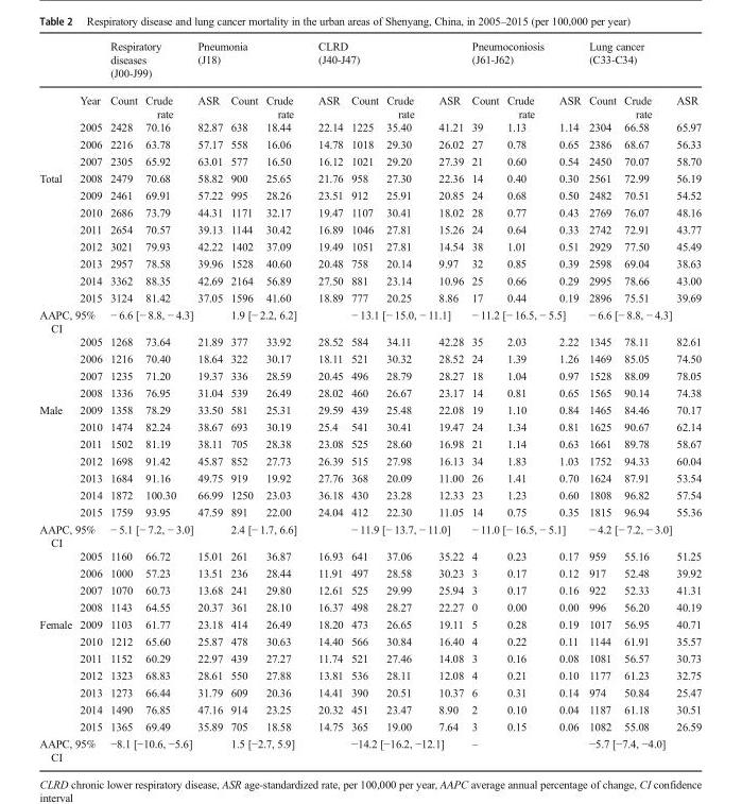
<table><thead><tr><td rowspan="2"></td><td rowspan="2">Year</td><td colspan="2">Respiratory diseases (J00-J99)</td><td colspan="3">Pneumonia (J18)</td><td colspan="4">CLRD (J40-J47)</td><td colspan="3">Pneumoconiosis (J61-J62)</td><td colspan="3">Lung cancer (C33-C34)</td></tr><tr><td>Count</td><td>Crude rate</td><td>ASR</td><td>Count</td><td>Crude rate</td><td>ASR</td><td>Count</td><td>Crude rate</td><td>ASR</td><td>Count</td><td>Crude rate</td><td>ASR</td><td>Count</td><td>Crude rate</td><td>ASR</td></tr></thead><tbody><tr><td></td><td>2005</td><td>2428</td><td>70.16</td><td>82.87</td><td>638</td><td>18.44</td><td>22.14</td><td>1225</td><td>35.40</td><td>41.21</td><td>39</td><td>1.13</td><td>1.14</td><td>2304</td><td>66.58</td><td>65.97</td></tr><tr><td></td><td>2006</td><td>2216</td><td>63.78</td><td>57.17</td><td>558</td><td>16.06</td><td>14.78</td><td>1018</td><td>29.30</td><td>26.02</td><td>27</td><td>0.78</td><td>0.65</td><td>2386</td><td>68.67</td><td>56.33</td></tr><tr><td></td><td>2007</td><td>2305</td><td>65.92</td><td>63.01</td><td>577</td><td>16.50</td><td>16.12</td><td>1021</td><td>29.20</td><td>27.39</td><td>21</td><td>0.60</td><td>0.54</td><td>2450</td><td>70.07</td><td>58.70</td></tr><tr><td rowspan="8">Total</td><td>2008</td><td>2479</td><td>70.68</td><td>58.82</td><td>900</td><td>25.65</td><td>21.76</td><td>958</td><td>27.30</td><td>22.36</td><td>14</td><td>0.40</td><td>0.30</td><td>2561</td><td>72.99</td><td>56.19</td></tr><tr><td>2009</td><td>2461</td><td>69.91</td><td>57.22</td><td>995</td><td>28.26</td><td>23.51</td><td>912</td><td>25.91</td><td>20.85</td><td>24</td><td>0.68</td><td>0.50</td><td>2482</td><td>70.51</td><td>54.52</td></tr><tr><td>2010</td><td>2686</td><td>73.79</td><td>44.31</td><td>1171</td><td>32.17</td><td>19.47</td><td>1107</td><td>30.41</td><td>18.02</td><td>28</td><td>0.77</td><td>0.43</td><td>2769</td><td>76.07</td><td>48.16</td></tr><tr><td>2011</td><td>2654</td><td>70.57</td><td>39.13</td><td>1144</td><td>30.42</td><td>16.89</td><td>1046</td><td>27.81</td><td>15.26</td><td>24</td><td>0.64</td><td>0.33</td><td>2742</td><td>72.91</td><td>43.77</td></tr><tr><td>2012</td><td>3021</td><td>79.93</td><td>42.22</td><td>1402</td><td>37.09</td><td>19.49</td><td>1051</td><td>27.81</td><td>14.54</td><td>38</td><td>1.01</td><td>0.51</td><td>2929</td><td>77.50</td><td>45.49</td></tr><tr><td>2013</td><td>2957</td><td>78.58</td><td>39.96</td><td>1528</td><td>40.60</td><td>20.48</td><td>758</td><td>20.14</td><td>9.97</td><td>32</td><td>0.85</td><td>0.39</td><td>2598</td><td>69.04</td><td>38.63</td></tr><tr><td>2014</td><td>3362</td><td>88.35</td><td>42.69</td><td>2164</td><td>56.89</td><td>27.50</td><td>881</td><td>23.14</td><td>10.96</td><td>25</td><td>0.66</td><td>0.29</td><td>2995</td><td>78.66</td><td>43.00</td></tr><tr><td>2015</td><td>3124</td><td>81.42</td><td>37.05</td><td>1596</td><td>41.60</td><td>18.89</td><td>777</td><td>20.25</td><td>8.86</td><td>17</td><td>0.44</td><td>0.19</td><td>2896</td><td>75.51</td><td>39.69</td></tr><tr><td colspan="2">AAPC, 95% CI</td><td colspan="3">− 6.6 [− 8.8, − 4.3]</td><td colspan="3">1.9 [− 2.2, 6.2]</td><td colspan="3">− 13.1 [− 15.0, − 11.1]</td><td colspan="3">− 11.2 [− 16.5, − 5.5]</td><td colspan="3">− 6.6 [− 8.8, − 4.3]</td></tr><tr><td></td><td>2005</td><td>1268</td><td>73.64</td><td>21.89</td><td>377</td><td>33.92</td><td>28.52</td><td>584</td><td>34.11</td><td>42.28</td><td>35</td><td>2.03</td><td>2.22</td><td>1345</td><td>78.11</td><td>82.61</td></tr><tr><td></td><td>2006</td><td>1216</td><td>70.40</td><td>18.64</td><td>322</td><td>30.17</td><td>18.11</td><td>521</td><td>30.32</td><td>28.52</td><td>24</td><td>1.39</td><td>1.26</td><td>1469</td><td>85.05</td><td>74.50</td></tr><tr><td></td><td>2007</td><td>1235</td><td>71.20</td><td>19.37</td><td>336</td><td>28.59</td><td>20.45</td><td>496</td><td>28.79</td><td>28.27</td><td>18</td><td>1.04</td><td>0.97</td><td>1528</td><td>88.09</td><td>78.05</td></tr><tr><td></td><td>2008</td><td>1336</td><td>76.95</td><td>31.04</td><td>539</td><td>26.49</td><td>28.02</td><td>460</td><td>26.67</td><td>23.17</td><td>14</td><td>0.81</td><td>0.65</td><td>1565</td><td>90.14</td><td>74.38</td></tr><tr><td rowspan="7">Male</td><td>2009</td><td>1358</td><td>78.29</td><td>33.50</td><td>581</td><td>25.31</td><td>29.59</td><td>439</td><td>25.48</td><td>22.08</td><td>19</td><td>1.10</td><td>0.84</td><td>1465</td><td>84.46</td><td>70.17</td></tr><tr><td>2010</td><td>1474</td><td>82.24</td><td>38.67</td><td>693</td><td>30.19</td><td>25.4</td><td>541</td><td>30.41</td><td>19.47</td><td>24</td><td>1.34</td><td>0.81</td><td>1625</td><td>90.67</td><td>62.14</td></tr><tr><td>2011</td><td>1502</td><td>81.19</td><td>38.11</td><td>705</td><td>28.38</td><td>23.08</td><td>525</td><td>28.60</td><td>16.98</td><td>21</td><td>1.14</td><td>0.63</td><td>1661</td><td>89.78</td><td>58.67</td></tr><tr><td>2012</td><td>1698</td><td>91.42</td><td>45.87</td><td>852</td><td>27.73</td><td>26.39</td><td>515</td><td>27.98</td><td>16.13</td><td>34</td><td>1.83</td><td>1.03</td><td>1752</td><td>94.33</td><td>60.04</td></tr><tr><td>2013</td><td>1684</td><td>91.16</td><td>49.75</td><td>919</td><td>19.92</td><td>27.76</td><td>368</td><td>20.09</td><td>11.00</td><td>26</td><td>1.41</td><td>0.70</td><td>1624</td><td>87.91</td><td>53.54</td></tr><tr><td>2014</td><td>1872</td><td>100.30</td><td>66.99</td><td>1250</td><td>23.03</td><td>36.18</td><td>430</td><td>23.28</td><td>12.33</td><td>23</td><td>1.23</td><td>0.60</td><td>1808</td><td>96.82</td><td>57.54</td></tr><tr><td>2015</td><td>1759</td><td>93.95</td><td>47.59</td><td>891</td><td>22.00</td><td>24.04</td><td>412</td><td>22.30</td><td>11.05</td><td>14</td><td>0.75</td><td>0.35</td><td>1815</td><td>96.94</td><td>55.36</td></tr><tr><td colspan="2">AAPC, 95% CI</td><td colspan="3">− 5.1 [− 7.2, − 3.0]</td><td colspan="3">2.4 [− 1.7, 6.6]</td><td colspan="3">− 11.9 [− 13.7, − 11.0]</td><td colspan="3">− 11.0 [− 16.5, − 5.1]</td><td colspan="3">− 4.2 [− 7.2, − 3.0]</td></tr><tr><td></td><td>2005</td><td>1160</td><td>66.72</td><td>15.01</td><td>261</td><td>36.87</td><td>16.93</td><td>641</td><td>37.06</td><td>35.22</td><td>4</td><td>0.23</td><td>0.17</td><td>959</td><td>55.16</td><td>51.25</td></tr><tr><td></td><td>2006</td><td>1000</td><td>57.23</td><td>13.51</td><td>236</td><td>28.44</td><td>11.91</td><td>497</td><td>28.58</td><td>30.23</td><td>3</td><td>0.17</td><td>0.12</td><td>917</td><td>52.48</td><td>39.92</td></tr><tr><td></td><td>2007</td><td>1070</td><td>60.73</td><td>13.68</td><td>241</td><td>29.80</td><td>12.61</td><td>525</td><td>29.99</td><td>25.94</td><td>3</td><td>0.17</td><td>0.16</td><td>922</td><td>52.33</td><td>41.31</td></tr><tr><td></td><td>2008</td><td>1143</td><td>64.55</td><td>20.37</td><td>361</td><td>28.10</td><td>16.37</td><td>498</td><td>28.27</td><td>22.27</td><td>0</td><td>0.00</td><td>0.00</td><td>996</td><td>56.20</td><td>40.19</td></tr><tr><td rowspan="7">Female</td><td>2009</td><td>1103</td><td>61.77</td><td>23.18</td><td>414</td><td>26.49</td><td>18.20</td><td>473</td><td>26.65</td><td>19.11</td><td>5</td><td>0.28</td><td>0.19</td><td>1017</td><td>56.95</td><td>40.71</td></tr><tr><td>2010</td><td>1212</td><td>65.60</td><td>25.87</td><td>478</td><td>30.63</td><td>14.40</td><td>566</td><td>30.84</td><td>16.40</td><td>4</td><td>0.22</td><td>0.11</td><td>1144</td><td>61.91</td><td>35.57</td></tr><tr><td>2011</td><td>1152</td><td>60.29</td><td>22.97</td><td>439</td><td>27.27</td><td>11.74</td><td>521</td><td>27.46</td><td>14.08</td><td>3</td><td>0.16</td><td>0.08</td><td>1081</td><td>56.57</td><td>30.73</td></tr><tr><td>2012</td><td>1323</td><td>68.83</td><td>28.61</td><td>550</td><td>27.88</td><td>13.81</td><td>536</td><td>28.11</td><td>12.08</td><td>4</td><td>0.21</td><td>0.10</td><td>1177</td><td>61.23</td><td>32.75</td></tr><tr><td>2013</td><td>1273</td><td>66.44</td><td>31.79</td><td>609</td><td>20.36</td><td>14.41</td><td>390</td><td>20.51</td><td>10.37</td><td>6</td><td>0.31</td><td>0.14</td><td>974</td><td>50.84</td><td>25.47</td></tr><tr><td>2014</td><td>1490</td><td>76.85</td><td>47.16</td><td>914</td><td>23.25</td><td>20.32</td><td>451</td><td>23.47</td><td>8.90</td><td>2</td><td>0.10</td><td>0.04</td><td>1187</td><td>61.18</td><td>30.51</td></tr><tr><td>2015</td><td>1365</td><td>69.49</td><td>35.89</td><td>705</td><td>18.58</td><td>14.75</td><td>365</td><td>19.00</td><td>7.64</td><td>3</td><td>0.15</td><td>0.06</td><td>1082</td><td>55.08</td><td>26.59</td></tr><tr><td colspan="2">AAPC, 95% CI</td><td colspan="3">−8.1 [−10.6, −5.6]</td><td colspan="3">1.5 [−2.7, 5.9]</td><td colspan="3">−14.2 [−16.2, −12.1]</td><td colspan="3">–</td><td colspan="3">−5.7 [−7.4, −4.0]</td></tr></tbody></table>